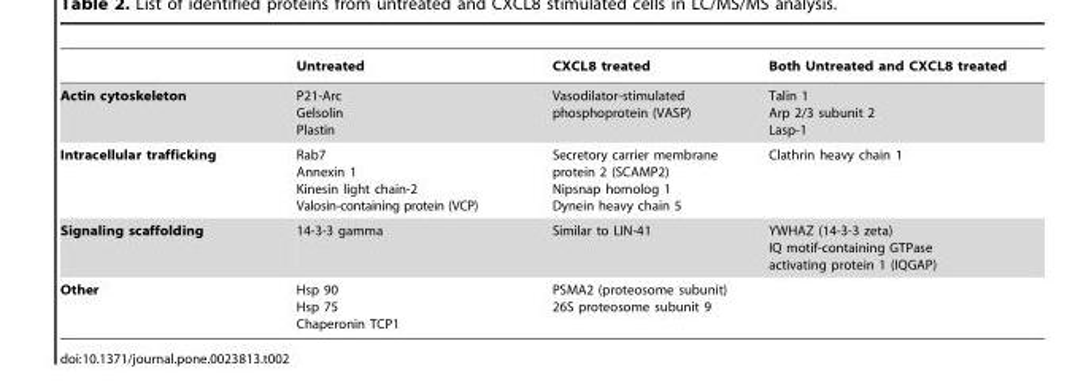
<table><thead><tr><td></td><td>Untreated</td><td>CXCL8 treated</td><td>Both Untreated and CXCL8 treated</td></tr></thead><tbody><tr><td>Actin cytoskeleton</td><td>P21-Arc Gelsolin Plastin</td><td>Vasodilator-stimulated phosphoprotein (VASP)</td><td>Talin 1 Arp 2/3 subunit 2 Lasp-1</td></tr><tr><td>Intracellular trafficking</td><td>Rab7 Annexin 1 Kinesin light chain-2 Valosin-containing protein (VCP)</td><td>Secretory carrier membrane protein 2 (SCAMP2) Nipsnap homolog 1 Dynein heavy chain 5</td><td>Clathrin heavy chain 1</td></tr><tr><td>Signaling scaffolding</td><td>14-3-3 gamma</td><td>Similar to LIN-41</td><td>YWHAZ (14-3-3 zeta) IQ motif-containing GTPase activating protein 1 (IQGAP)</td></tr><tr><td>Other</td><td>Hsp 90 Hsp 75 Chaperonin TCP1</td><td>PSMA2 (proteosome subunit) 26S proteosome subunit 9</td><td></td></tr></tbody></table>